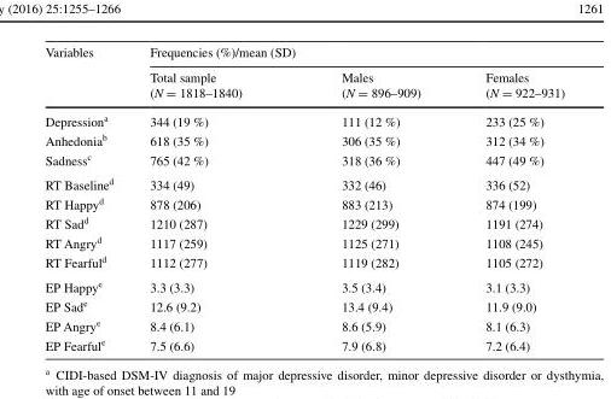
<table><thead><tr><td rowspan="2">Variables</td><td colspan="3">Frequencies (%)/mean (SD)</td></tr><tr><td>Total sample (N = 1818–1840)</td><td>Males (N = 896–909)</td><td>Females (N = 922–931)</td></tr></thead><tbody><tr><td>Depression<sup>a</sup></td><td>344 (19 %)</td><td>111 (12 %)</td><td>233 (25 %)</td></tr><tr><td>Anhedonia<sup>b</sup></td><td>618 (35 %)</td><td>306 (35 %)</td><td>312 (34 %)</td></tr><tr><td>Sadness<sup>c</sup></td><td>765 (42 %)</td><td>318 (36 %)</td><td>447 (49 %)</td></tr><tr><td>RT Baseline<sup>d</sup></td><td>334 (49)</td><td>332 (46)</td><td>336 (52)</td></tr><tr><td>RT Happy<sup>d</sup></td><td>878 (206)</td><td>883 (213)</td><td>874 (199)</td></tr><tr><td>RT Sad<sup>d</sup></td><td>1210 (287)</td><td>1229 (299)</td><td>1191 (274)</td></tr><tr><td>RT Angry<sup>d</sup></td><td>1117 (259)</td><td>1125 (271)</td><td>1108 (245)</td></tr><tr><td>RT Fearful<sup>d</sup></td><td>1112 (277)</td><td>1119 (282)</td><td>1105 (272)</td></tr><tr><td>EP Happy<sup>e</sup></td><td>3.3 (3.3)</td><td>3.5 (3.4)</td><td>3.1 (3.3)</td></tr><tr><td>EP Sad<sup>e</sup></td><td>12.6 (9.2)</td><td>13.4 (9.4)</td><td>11.9 (9.0)</td></tr><tr><td>EP Angry<sup>e</sup></td><td>8.4 (6.1)</td><td>8.6 (5.9)</td><td>8.1 (6.3)</td></tr><tr><td>EP Fearful<sup>e</sup></td><td>7.5 (6.6)</td><td>7.9 (6.8)</td><td>7.2 (6.4)</td></tr></tbody></table>